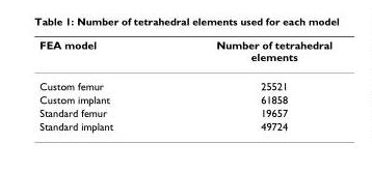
<table><thead><tr><td>FEA model</td><td>Number of tetrahedral elements</td></tr></thead><tbody><tr><td>Custom femur</td><td>25521</td></tr><tr><td>Custom implant</td><td>61858</td></tr><tr><td>Standard femur</td><td>19657</td></tr><tr><td>Standard implant</td><td>49724</td></tr></tbody></table>